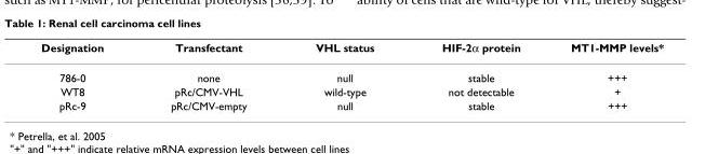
<table><thead><tr><td>Designation</td><td>Transfectant</td><td>VHL status</td><td>HIF-2α protein</td><td>MT1-MMP levels*</td></tr></thead><tbody><tr><td>786-0</td><td>none</td><td>null</td><td>stable</td><td>+++</td></tr><tr><td>WT8</td><td>pRc/CMV-VHL</td><td>wild-type</td><td>not detectable</td><td>+</td></tr><tr><td>pRc-9</td><td>pRc/CMV-empty</td><td>null</td><td>stable</td><td>+++</td></tr></tbody></table>